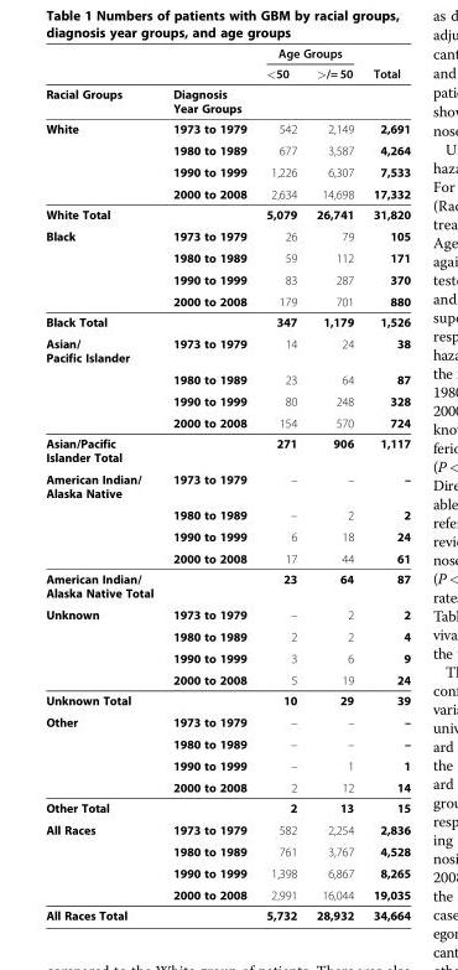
<table><thead><tr><td rowspan="2"></td><td rowspan="2"></td><td colspan="2">Age Groups</td><td rowspan="2">Total</td></tr><tr><td>&lt;50</td><td>&gt;/= 50</td></tr></thead><tbody><tr><td>Racial Groups</td><td>Diagnosis Year Groups</td><td></td><td></td><td></td></tr><tr><td rowspan="4">White</td><td>1973 to 1979</td><td>542</td><td>2,149</td><td>2,691</td></tr><tr><td>1980 to 1989</td><td>677</td><td>3,587</td><td>4,264</td></tr><tr><td>1990 to 1999</td><td>1,226</td><td>6,307</td><td>7,533</td></tr><tr><td>2000 to 2008</td><td>2,634</td><td>14,698</td><td>17,332</td></tr><tr><td>White Total</td><td></td><td>5,079</td><td>26,741</td><td>31,820</td></tr><tr><td rowspan="4">Black</td><td>1973 to 1979</td><td>26</td><td>79</td><td>105</td></tr><tr><td>1980 to 1989</td><td>59</td><td>112</td><td>171</td></tr><tr><td>1990 to 1999</td><td>83</td><td>287</td><td>370</td></tr><tr><td>2000 to 2008</td><td>179</td><td>701</td><td>880</td></tr><tr><td>Black Total</td><td></td><td>347</td><td>1,179</td><td>1,526</td></tr><tr><td rowspan="4">Asian/ Pacific Islander</td><td>1973 to 1979</td><td>14</td><td>24</td><td>38</td></tr><tr><td>1980 to 1989</td><td>23</td><td>64</td><td>87</td></tr><tr><td>1990 to 1999</td><td>80</td><td>248</td><td>328</td></tr><tr><td>2000 to 2008</td><td>154</td><td>570</td><td>724</td></tr><tr><td>Asian/Pacific Islander Total</td><td></td><td>271</td><td>906</td><td>1,117</td></tr><tr><td rowspan="4">American Indian/ Alaska Native</td><td>1973 to 1979</td><td>–</td><td>–</td><td>–</td></tr><tr><td>1980 to 1989</td><td>–</td><td>2</td><td>2</td></tr><tr><td>1990 to 1999</td><td>6</td><td>18</td><td>24</td></tr><tr><td>2000 to 2008</td><td>17</td><td>44</td><td>61</td></tr><tr><td>American Indian/ Alaska Native Total</td><td></td><td>23</td><td>64</td><td>87</td></tr><tr><td rowspan="4">Unknown</td><td>1973 to 1979</td><td>–</td><td>2</td><td>2</td></tr><tr><td>1980 to 1989</td><td>2</td><td>2</td><td>4</td></tr><tr><td>1990 to 1999</td><td>3</td><td>6</td><td>9</td></tr><tr><td>2000 to 2008</td><td>5</td><td>19</td><td>24</td></tr><tr><td>Unknown Total</td><td></td><td>10</td><td>29</td><td>39</td></tr><tr><td rowspan="4">Other</td><td>1973 to 1979</td><td>–</td><td>–</td><td>–</td></tr><tr><td>1980 to 1989</td><td>–</td><td>–</td><td>–</td></tr><tr><td>1990 to 1999</td><td>–</td><td>1</td><td>1</td></tr><tr><td>2000 to 2008</td><td>2</td><td>12</td><td>14</td></tr><tr><td>Other Total</td><td></td><td>2</td><td>13</td><td>15</td></tr><tr><td rowspan="4">All Races</td><td>1973 to 1979</td><td>582</td><td>2,254</td><td>2,836</td></tr><tr><td>1980 to 1989</td><td>761</td><td>3,767</td><td>4,528</td></tr><tr><td>1990 to 1999</td><td>1,398</td><td>6,867</td><td>8,265</td></tr><tr><td>2000 to 2008</td><td>2,991</td><td>16,044</td><td>19,035</td></tr><tr><td>All Races Total</td><td></td><td>5,732</td><td>28,932</td><td>34,664</td></tr></tbody></table>